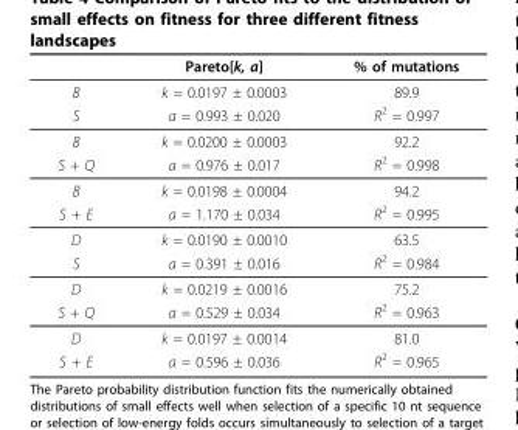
<table><thead><tr><td></td><td>Pareto[k, a]</td><td>% of mutations</td></tr></thead><tbody><tr><td>B</td><td>k = 0.0197 ± 0.0003</td><td>89.9</td></tr><tr><td>S</td><td>a = 0.993 ± 0.020</td><td>R<sup>2</sup> = 0.997</td></tr><tr><td>B</td><td>k = 0.0200 ± 0.0003</td><td>92.2</td></tr><tr><td>S + Q</td><td>a = 0.976 ± 0.017</td><td>R<sup>2</sup> = 0.998</td></tr><tr><td>B</td><td>k = 0.0198 ± 0.0004</td><td>94.2</td></tr><tr><td>S + E</td><td>a = 1.170 ± 0.034</td><td>R<sup>2</sup> = 0.995</td></tr><tr><td>D</td><td>k = 0.0190 ± 0.0010</td><td>63.5</td></tr><tr><td>S</td><td>a = 0.391 ± 0.016</td><td>R<sup>2</sup> = 0.984</td></tr><tr><td>D</td><td>k = 0.0219 ± 0.0016</td><td>75.2</td></tr><tr><td>S + Q</td><td>a = 0.529 ± 0.034</td><td>R<sup>2</sup> = 0.963</td></tr><tr><td>D</td><td>k = 0.0197 ± 0.0014</td><td>81.0</td></tr><tr><td>S + E</td><td>a = 0.596 ± 0.036</td><td>R<sup>2</sup> = 0.965</td></tr></tbody></table>